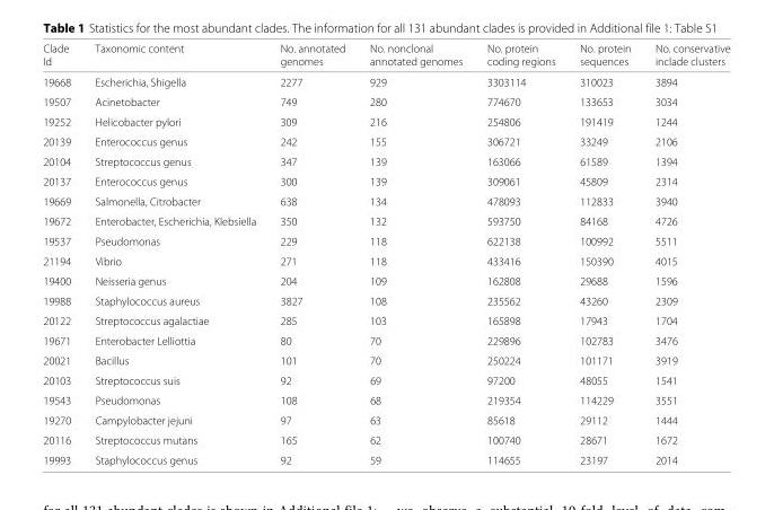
<table><thead><tr><td rowspan="2">Clade Id</td><td rowspan="2">Taxonomic content</td><td rowspan="2">No. annotated genomes</td><td rowspan="2">No. nonclonal annotated genomes</td><td rowspan="2">No. protein coding regions</td><td rowspan="2">No. protein sequences</td><td rowspan="2">No. conservative inclade clusters</td></tr><tr></tr></thead><tbody><tr><td>19668</td><td>Escherichia, Shigella</td><td>2277</td><td>929</td><td>3303114</td><td>310023</td><td>3894</td></tr><tr><td>19507</td><td>Acinetobacter</td><td>749</td><td>280</td><td>774670</td><td>133653</td><td>3034</td></tr><tr><td>19252</td><td>Helicobacter pylori</td><td>309</td><td>216</td><td>254806</td><td>191419</td><td>1244</td></tr><tr><td>20139</td><td>Enterococcus genus</td><td>242</td><td>155</td><td>306721</td><td>33249</td><td>2106</td></tr><tr><td>20104</td><td>Streptococcus genus</td><td>347</td><td>139</td><td>163066</td><td>61589</td><td>1394</td></tr><tr><td>20137</td><td>Enterococcus genus</td><td>300</td><td>139</td><td>309061</td><td>45809</td><td>2314</td></tr><tr><td>19669</td><td>Salmonella, Citrobacter</td><td>638</td><td>134</td><td>478093</td><td>112833</td><td>3940</td></tr><tr><td>19672</td><td>Enterobacter, Escherichia, Klebsiella</td><td>350</td><td>132</td><td>593750</td><td>84168</td><td>4726</td></tr><tr><td>19537</td><td>Pseudomonas</td><td>229</td><td>118</td><td>622138</td><td>100992</td><td>5511</td></tr><tr><td>21194</td><td>Vibrio</td><td>271</td><td>118</td><td>433416</td><td>150390</td><td>4015</td></tr><tr><td>19400</td><td>Neisseria genus</td><td>204</td><td>109</td><td>162808</td><td>29688</td><td>1596</td></tr><tr><td>19988</td><td>Staphylococcus aureus</td><td>3827</td><td>108</td><td>235562</td><td>43260</td><td>2309</td></tr><tr><td>20122</td><td>Streptococcus agalactiae</td><td>285</td><td>103</td><td>165898</td><td>17943</td><td>1704</td></tr><tr><td>19671</td><td>Enterobacter Lelliottia</td><td>80</td><td>70</td><td>229896</td><td>102783</td><td>3476</td></tr><tr><td>20021</td><td>Bacillus</td><td>101</td><td>70</td><td>250224</td><td>101171</td><td>3919</td></tr><tr><td>20103</td><td>Streptococcus suis</td><td>92</td><td>69</td><td>97200</td><td>48055</td><td>1541</td></tr><tr><td>19543</td><td>Pseudomonas</td><td>108</td><td>68</td><td>219354</td><td>114229</td><td>3551</td></tr><tr><td>19270</td><td>Campylobacter jejuni</td><td>97</td><td>63</td><td>85618</td><td>29112</td><td>1444</td></tr><tr><td>20116</td><td>Streptococcus mutans</td><td>165</td><td>62</td><td>100740</td><td>28671</td><td>1672</td></tr><tr><td>19993</td><td>Staphylococcus genus</td><td>92</td><td>59</td><td>114655</td><td>23197</td><td>2014</td></tr></tbody></table>